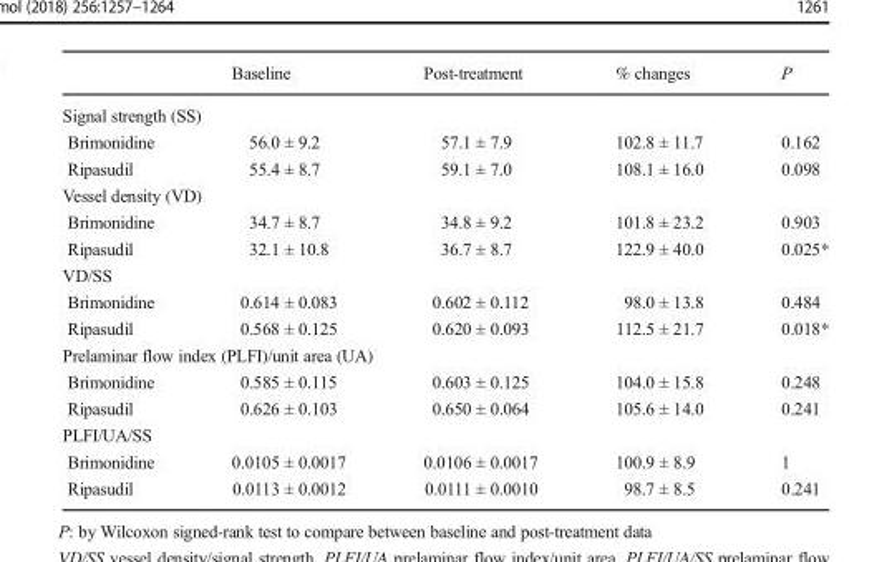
<table><thead><tr><td></td><td>Baseline</td><td>Post-treatment</td><td>% changes</td><td>P</td></tr></thead><tbody><tr><td colspan="5">Signal strength (SS)</td></tr><tr><td>Brimonidine</td><td>56.0 ± 9.2</td><td>57.1 ± 7.9</td><td>102.8 ± 11.7</td><td>0.162</td></tr><tr><td>Ripasudil</td><td>55.4 ± 8.7</td><td>59.1 ± 7.0</td><td>108.1 ± 16.0</td><td>0.098</td></tr><tr><td colspan="5">Vessel density (VD)</td></tr><tr><td>Brimonidine</td><td>34.7 ± 8.7</td><td>34.8 ± 9.2</td><td>101.8 ± 23.2</td><td>0.903</td></tr><tr><td>Ripasudil</td><td>32.1 ± 10.8</td><td>36.7 ± 8.7</td><td>122.9 ± 40.0</td><td>0.025*</td></tr><tr><td colspan="5">VD/SS</td></tr><tr><td>Brimonidine</td><td>0.614 ± 0.083</td><td>0.602 ± 0.112</td><td>98.0 ± 13.8</td><td>0.484</td></tr><tr><td>Ripasudil</td><td>0.568 ± 0.125</td><td>0.620 ± 0.093</td><td>112.5 ± 21.7</td><td>0.018*</td></tr><tr><td colspan="5">Prelaminar flow index (PLFI)/unit area (UA)</td></tr><tr><td>Brimonidine</td><td>0.585 ± 0.115</td><td>0.603 ± 0.125</td><td>104.0 ± 15.8</td><td>0.248</td></tr><tr><td>Ripasudil</td><td>0.626 ± 0.103</td><td>0.650 ± 0.064</td><td>105.6 ± 14.0</td><td>0.241</td></tr><tr><td colspan="5">PLFI/UA/SS</td></tr><tr><td>Brimonidine</td><td>0.0105 ± 0.0017</td><td>0.0106 ± 0.0017</td><td>100.9 ± 8.9</td><td>1</td></tr><tr><td>Ripasudil</td><td>0.0113 ± 0.0012</td><td>0.0111 ± 0.0010</td><td>98.7 ± 8.5</td><td>0.241</td></tr></tbody></table>